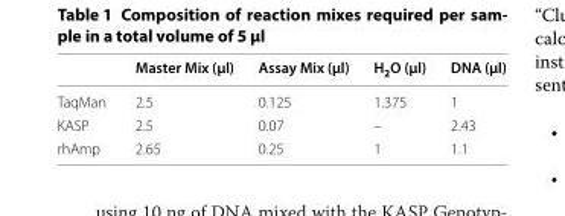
<table><thead><tr><td></td><td>Master Mix (μl)</td><td>Assay Mix (μl)</td><td>H<sub>2</sub>O (μl)</td><td>DNA (μl)</td></tr></thead><tbody><tr><td>TaqMan</td><td>2.5</td><td>0.125</td><td>1.375</td><td>1</td></tr><tr><td>KASP</td><td>2.5</td><td>0.07</td><td>–</td><td>2.43</td></tr><tr><td>rhAmp</td><td>2.65</td><td>0.25</td><td>1</td><td>1.1</td></tr></tbody></table>